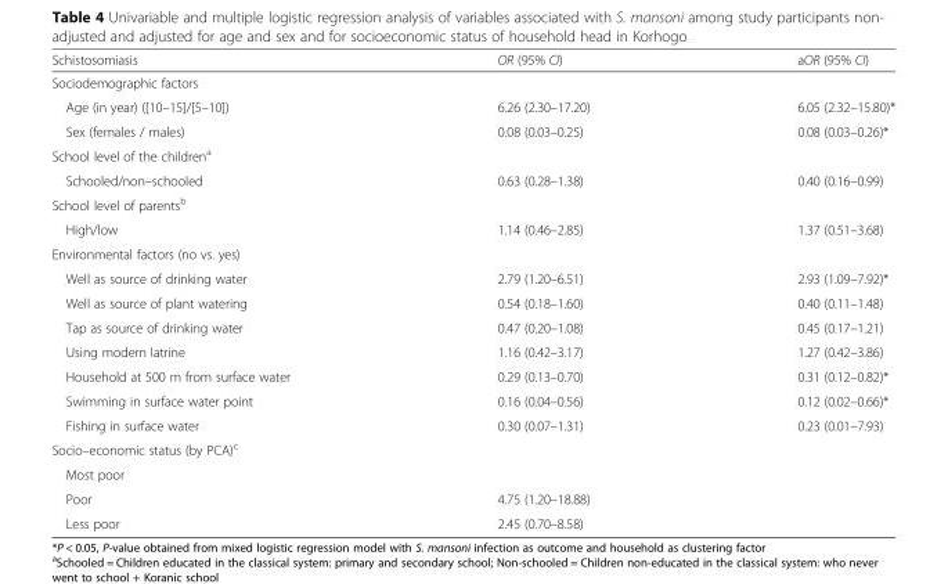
<table><thead><tr><td>Schistosomiasis</td><td>OR (95% CI)</td><td>aOR (95% CI)</td></tr></thead><tbody><tr><td colspan="3">Sociodemographic factors</td></tr><tr><td>Age (in year) ([10–15]/[5–10])</td><td>6.26 (2.30–17.20)</td><td>6.05 (2.32–15.80)*</td></tr><tr><td>Sex (females / males)</td><td>0.08 (0.03–0.25)</td><td>0.08 (0.03–0.26)*</td></tr><tr><td colspan="3">School level of the children<sup>a</sup></td></tr><tr><td>Schooled/non–schooled</td><td>0.63 (0.28–1.38)</td><td>0.40 (0.16–0.99)</td></tr><tr><td colspan="3">School level of parents<sup>b</sup></td></tr><tr><td>High/low</td><td>1.14 (0.46–2.85)</td><td>1.37 (0.51–3.68)</td></tr><tr><td colspan="3">Environmental factors (no vs. yes)</td></tr><tr><td>Well as source of drinking water</td><td>2.79 (1.20–6.51)</td><td>2.93 (1.09–7.92)*</td></tr><tr><td>Well as source of plant watering</td><td>0.54 (0.18–1.60)</td><td>0.40 (0.11–1.48)</td></tr><tr><td>Tap as source of drinking water</td><td>0.47 (0.20–1.08)</td><td>0.45 (0.17–1.21)</td></tr><tr><td>Using modern latrine</td><td>1.16 (0.42–3.17)</td><td>1.27 (0.42–3.86)</td></tr><tr><td>Household at 500 m from surface water</td><td>0.29 (0.13–0.70)</td><td>0.31 (0.12–0.82)*</td></tr><tr><td>Swimming in surface water point</td><td>0.16 (0.04–0.56)</td><td>0.12 (0.02–0.66)*</td></tr><tr><td>Fishing in surface water</td><td>0.30 (0.07–1.31)</td><td>0.23 (0.01–7.93)</td></tr><tr><td colspan="3">Socio–economic status (by PCA)<sup>c</sup></td></tr><tr><td colspan="3">Most poor</td></tr><tr><td>Poor</td><td>4.75 (1.20–18.88)</td><td></td></tr><tr><td>Less poor</td><td>2.45 (0.70–8.58)</td><td></td></tr></tbody></table>